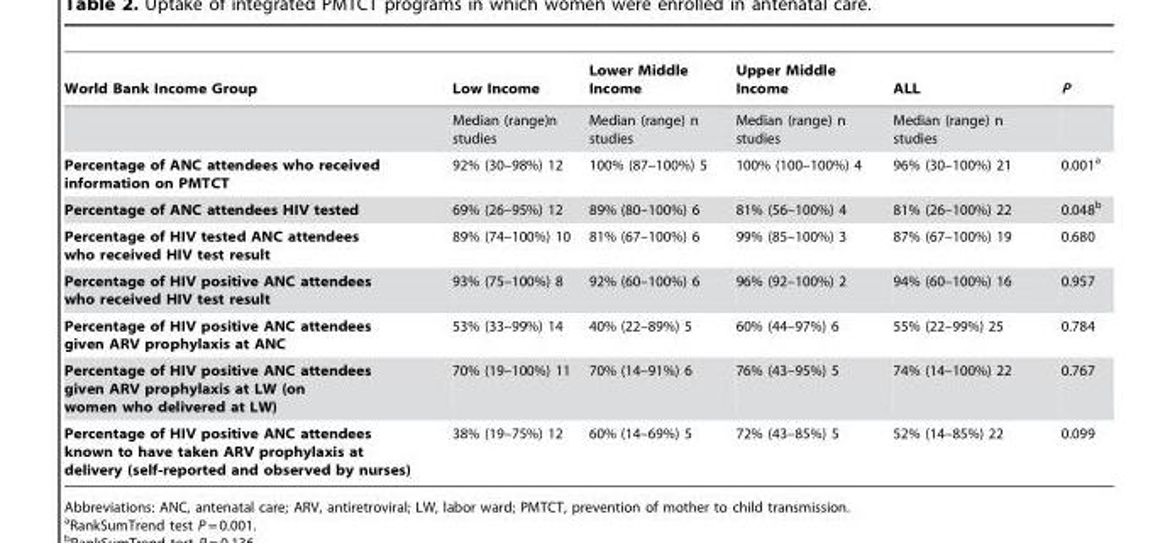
<table><thead><tr><td>World Bank Income Group</td><td>Low Income</td><td>Lower Middle Income</td><td>Upper Middle Income</td><td>ALL</td><td>P</td></tr></thead><tbody><tr><td></td><td>Median (range)n studies</td><td>Median (range) n studies</td><td>Median (range) n studies</td><td>Median (range) n studies</td><td></td></tr><tr><td>Percentage of ANC attendees who received information on PMTCT</td><td>92% (30–98%) 12</td><td>100% (87–100%) 5</td><td>100% (100–100%) 4</td><td>96% (30–100%) 21</td><td>0.001<sup>a</sup></td></tr><tr><td>Percentage of ANC attendees HIV tested</td><td>69% (26–95%) 12</td><td>89% (80–100%) 6</td><td>81% (56–100%) 4</td><td>81% (26–100%) 22</td><td>0.048<sup>b</sup></td></tr><tr><td>Percentage of HIV tested ANC attendees who received HIV test result</td><td>89% (74–100%) 10</td><td>81% (67–100%) 6</td><td>99% (85–100%) 3</td><td>87% (67–100%) 19</td><td>0.680</td></tr><tr><td>Percentage of HIV positive ANC attendees who received HIV test result</td><td>93% (75–100%) 8</td><td>92% (60–100%) 6</td><td>96% (92–100%) 2</td><td>94% (60–100%) 16</td><td>0.957</td></tr><tr><td>Percentage of HIV positive ANC attendees given ARV prophylaxis at ANC</td><td>53% (33–99%) 14</td><td>40% (22–89%) 5</td><td>60% (44–97%) 6</td><td>55% (22–99%) 25</td><td>0.784</td></tr><tr><td>Percentage of HIV positive ANC attendees given ARV prophylaxis at LW (on women who delivered at LW)</td><td>70% (19–100%) 11</td><td>70% (14–91%) 6</td><td>76% (43–95%) 5</td><td>74% (14–100%) 22</td><td>0.767</td></tr><tr><td>Percentage of HIV positive ANC attendees known to have taken ARV prophylaxis at delivery (self-reported and observed by nurses)</td><td>38% (19–75%) 12</td><td>60% (14–69%) 5</td><td>72% (43–85%) 5</td><td>52% (14–85%) 22</td><td>0.099</td></tr></tbody></table>